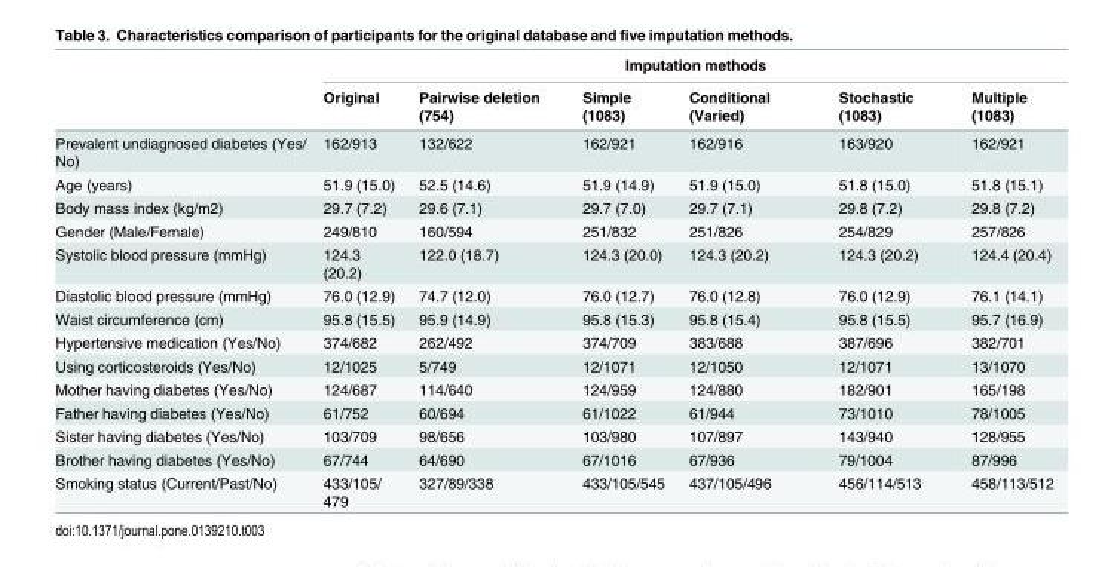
<table><thead><tr><td rowspan="2"></td><td colspan="6">Imputation methods</td></tr><tr><td>Original</td><td>Pairwise deletion (754)</td><td>Simple (1083)</td><td>Conditional (Varied)</td><td>Stochastic (1083)</td><td>Multiple (1083)</td></tr></thead><tbody><tr><td>Prevalent undiagnosed diabetes (Yes/ No)</td><td>162/913</td><td>132/622</td><td>162/921</td><td>162/916</td><td>163/920</td><td>162/921</td></tr><tr><td>Age (years)</td><td>51.9 (15.0)</td><td>52.5 (14.6)</td><td>51.9 (14.9)</td><td>51.9 (15.0)</td><td>51.8 (15.0)</td><td>51.8 (15.1)</td></tr><tr><td>Body mass index (kg/m2)</td><td>29.7 (7.2)</td><td>29.6 (7.1)</td><td>29.7 (7.0)</td><td>29.7 (7.1)</td><td>29.8 (7.2)</td><td>29.8 (7.2)</td></tr><tr><td>Gender (Male/Female)</td><td>249/810</td><td>160/594</td><td>251/832</td><td>251/826</td><td>254/829</td><td>257/826</td></tr><tr><td>Systolic blood pressure (mmHg)</td><td>124.3 (20.2)</td><td>122.0 (18.7)</td><td>124.3 (20.0)</td><td>124.3 (20.2)</td><td>124.3 (20.2)</td><td>124.4 (20.4)</td></tr><tr><td>Diastolic blood pressure (mmHg)</td><td>76.0 (12.9)</td><td>74.7 (12.0)</td><td>76.0 (12.7)</td><td>76.0 (12.8)</td><td>76.0 (12.9)</td><td>76.1 (14.1)</td></tr><tr><td>Waist circumference (cm)</td><td>95.8 (15.5)</td><td>95.9 (14.9)</td><td>95.8 (15.3)</td><td>95.8 (15.4)</td><td>95.8 (15.5)</td><td>95.7 (16.9)</td></tr><tr><td>Hypertensive medication (Yes/No)</td><td>374/682</td><td>262/492</td><td>374/709</td><td>383/688</td><td>387/696</td><td>382/701</td></tr><tr><td>Using corticosteroids (Yes/No)</td><td>12/1025</td><td>5/749</td><td>12/1071</td><td>12/1050</td><td>12/1071</td><td>13/1070</td></tr><tr><td>Mother having diabetes (Yes/No)</td><td>124/687</td><td>114/640</td><td>124/959</td><td>124/880</td><td>182/901</td><td>165/198</td></tr><tr><td>Father having diabetes (Yes/No)</td><td>61/752</td><td>60/694</td><td>61/1022</td><td>61/944</td><td>73/1010</td><td>78/1005</td></tr><tr><td>Sister having diabetes (Yes/No)</td><td>103/709</td><td>98/656</td><td>103/980</td><td>107/897</td><td>143/940</td><td>128/955</td></tr><tr><td>Brother having diabetes (Yes/No)</td><td>67/744</td><td>64/690</td><td>67/1016</td><td>67/936</td><td>79/1004</td><td>87/996</td></tr><tr><td>Smoking status (Current/Past/No)</td><td>433/105/ 479</td><td>327/89/338</td><td>433/105/545</td><td>437/105/496</td><td>456/114/513</td><td>458/113/512</td></tr></tbody></table>